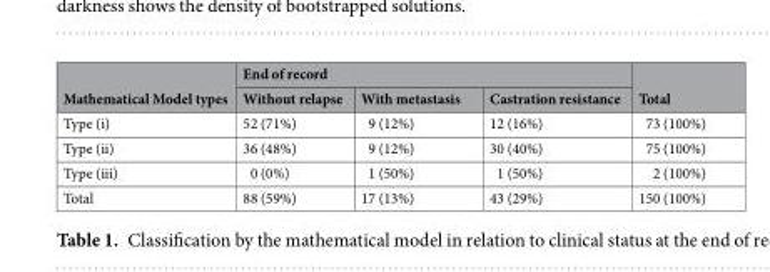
<table><thead><tr><td rowspan="2">Mathematical Model types</td><td colspan="3">End of record</td><td rowspan="2">Total</td></tr><tr><td>Without relapse</td><td>With metastasis</td><td>Castration resistance</td></tr></thead><tbody><tr><td>Type (i)</td><td>52 (71%)</td><td>9 (12%)</td><td>12 (16%)</td><td>73 (100%)</td></tr><tr><td>Type (ii)</td><td>36 (48%)</td><td>9 (12%)</td><td>30 (40%)</td><td>75 (100%)</td></tr><tr><td>Type (iii)</td><td>0 (0%)</td><td>1 (50%)</td><td>1 (50%)</td><td>2 (100%)</td></tr><tr><td>Total</td><td>88 (59%)</td><td>17 (13%)</td><td>43 (29%)</td><td>150 (100%)</td></tr></tbody></table>